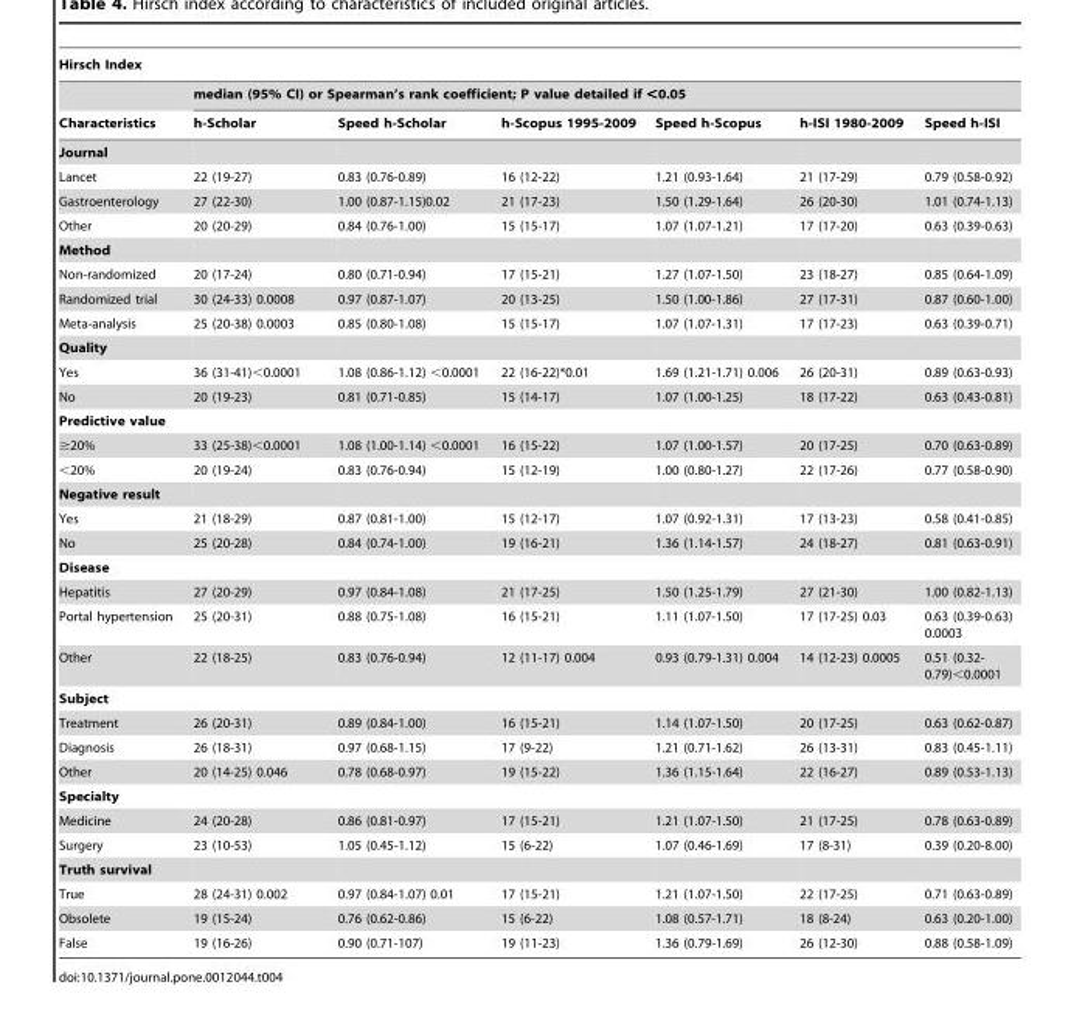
<table><thead><tr><td colspan="7">Hirsch Index</td></tr><tr><td rowspan="2">Characteristics</td><td colspan="6">median (95% CI) or Spearman’s rank coefficient; P value detailed if &lt;0.05</td></tr><tr><td>h-Scholar</td><td>Speed h-Scholar</td><td>h-Scopus 1995-2009</td><td>Speed h-Scopus</td><td>h-ISI 1980-2009</td><td>Speed h-ISI</td></tr></thead><tbody><tr><td colspan="7">Journal</td></tr><tr><td>Lancet</td><td>22 (19-27)</td><td>0.83 (0.76-0.89)</td><td>16 (12-22)</td><td>1.21 (0.93-1.64)</td><td>21 (17-29)</td><td>0.79 (0.58-0.92)</td></tr><tr><td>Gastroenterology</td><td>27 (22-30)</td><td>1.00 (0.87-1.15)0.02</td><td>21 (17-23)</td><td>1.50 (1.29-1.64)</td><td>26 (20-30)</td><td>1.01 (0.74-1.13)</td></tr><tr><td>Other</td><td>20 (20-29)</td><td>0.84 (0.76-1.00)</td><td>15 (15-17)</td><td>1.07 (1.07-1.21)</td><td>17 (17-20)</td><td>0.63 (0.39-0.63)</td></tr><tr><td colspan="7">Method</td></tr><tr><td>Non-randomized</td><td>20 (17-24)</td><td>0.80 (0.71-0.94)</td><td>17 (15-21)</td><td>1.27 (1.07-1.50)</td><td>23 (18-27)</td><td>0.85 (0.64-1.09)</td></tr><tr><td>Randomized trial</td><td>30 (24-33) 0.0008</td><td>0.97 (0.87-1.07)</td><td>20 (13-25)</td><td>1.50 (1.00-1.86)</td><td>27 (17-31)</td><td>0.87 (0.60-1.00)</td></tr><tr><td>Meta-analysis</td><td>25 (20-38) 0.0003</td><td>0.85 (0.80-1.08)</td><td>15 (15-17)</td><td>1.07 (1.07-1.31)</td><td>17 (17-23)</td><td>0.63 (0.39-0.71)</td></tr><tr><td colspan="7">Quality</td></tr><tr><td>Yes</td><td>36 (31-41)&lt;0.0001</td><td>1.08 (0.86-1.12) &lt;0.0001</td><td>22 (16-22)*0.01</td><td>1.69 (1.21-1.71) 0.006</td><td>26 (20-31)</td><td>0.89 (0.63-0.93)</td></tr><tr><td>No</td><td>20 (19-23)</td><td>0.81 (0.71-0.85)</td><td>15 (14-17)</td><td>1.07 (1.00-1.25)</td><td>18 (17-22)</td><td>0.63 (0.43-0.81)</td></tr><tr><td colspan="7">Predictive value</td></tr><tr><td>≥20%</td><td>33 (25-38)&lt;0.0001</td><td>1.08 (1.00-1.14) &lt;0.0001</td><td>16 (15-22)</td><td>1.07 (1.00-1.57)</td><td>20 (17-25)</td><td>0.70 (0.63-0.89)</td></tr><tr><td>&lt;20%</td><td>20 (19-24)</td><td>0.83 (0.76-0.94)</td><td>15 (12-19)</td><td>1.00 (0.80-1.27)</td><td>22 (17-26)</td><td>0.77 (0.58-0.90)</td></tr><tr><td colspan="7">Negative result</td></tr><tr><td>Yes</td><td>21 (18-29)</td><td>0.87 (0.81-1.00)</td><td>15 (12-17)</td><td>1.07 (0.92-1.31)</td><td>17 (13-23)</td><td>0.58 (0.41-0.85)</td></tr><tr><td>No</td><td>25 (20-28)</td><td>0.84 (0.74-1.00)</td><td>19 (16-21)</td><td>1.36 (1.14-1.57)</td><td>24 (18-27)</td><td>0.81 (0.63-0.91)</td></tr><tr><td colspan="7">Disease</td></tr><tr><td>Hepatitis</td><td>27 (20-29)</td><td>0.97 (0.84-1.08)</td><td>21 (17-25)</td><td>1.50 (1.25-1.79)</td><td>27 (21-30)</td><td>1.00 (0.82-1.13)</td></tr><tr><td>Portal hypertension</td><td>25 (20-31)</td><td>0.88 (0.75-1.08)</td><td>16 (15-21)</td><td>1.11 (1.07-1.50)</td><td>17 (17-25) 0.03</td><td>0.63 (0.39-0.63) 0.0003</td></tr><tr><td>Other</td><td>22 (18-25)</td><td>0.83 (0.76-0.94)</td><td>12 (11-17) 0.004</td><td>0.93 (0.79-1.31) 0.004</td><td>14 (12-23) 0.0005</td><td>0.51 (0.32- 0.79)&lt;0.0001</td></tr><tr><td colspan="7">Subject</td></tr><tr><td>Treatment</td><td>26 (20-31)</td><td>0.89 (0.84-1.00)</td><td>16 (15-21)</td><td>1.14 (1.07-1.50)</td><td>20 (17-25)</td><td>0.63 (0.62-0.87)</td></tr><tr><td>Diagnosis</td><td>26 (18-31)</td><td>0.97 (0.68-1.15)</td><td>17 (9-22)</td><td>1.21 (0.71-1.62)</td><td>26 (13-31)</td><td>0.83 (0.45-1.11)</td></tr><tr><td>Other</td><td>20 (14-25) 0.046</td><td>0.78 (0.68-0.97)</td><td>19 (15-22)</td><td>1.36 (1.15-1.64)</td><td>22 (16-27)</td><td>0.89 (0.53-1.13)</td></tr><tr><td colspan="7">Specialty</td></tr><tr><td>Medicine</td><td>24 (20-28)</td><td>0.86 (0.81-0.97)</td><td>17 (15-21)</td><td>1.21 (1.07-1.50)</td><td>21 (17-25)</td><td>0.78 (0.63-0.89)</td></tr><tr><td>Surgery</td><td>23 (10-53)</td><td>1.05 (0.45-1.12)</td><td>15 (6-22)</td><td>1.07 (0.46-1.69)</td><td>17 (8-31)</td><td>0.39 (0.20-8.00)</td></tr><tr><td colspan="7">Truth survival</td></tr><tr><td>True</td><td>28 (24-31) 0.002</td><td>0.97 (0.84-1.07) 0.01</td><td>17 (15-21)</td><td>1.21 (1.07-1.50)</td><td>22 (17-25)</td><td>0.71 (0.63-0.89)</td></tr><tr><td>Obsolete</td><td>19 (15-24)</td><td>0.76 (0.62-0.86)</td><td>15 (6-22)</td><td>1.08 (0.57-1.71)</td><td>18 (8-24)</td><td>0.63 (0.20-1.00)</td></tr><tr><td>False</td><td>19 (16-26)</td><td>0.90 (0.71-107)</td><td>19 (11-23)</td><td>1.36 (0.79-1.69)</td><td>26 (12-30)</td><td>0.88 (0.58-1.09)</td></tr></tbody></table>